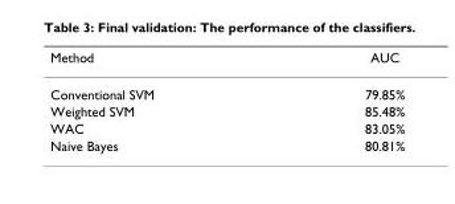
<table><thead><tr><td>Method</td><td>AUC</td></tr></thead><tbody><tr><td>Conventional SVM</td><td>79.85%</td></tr><tr><td>Weighted SVM</td><td>85.48%</td></tr><tr><td>WAC</td><td>83.05%</td></tr><tr><td>Naive Bayes</td><td>80.81%</td></tr></tbody></table>